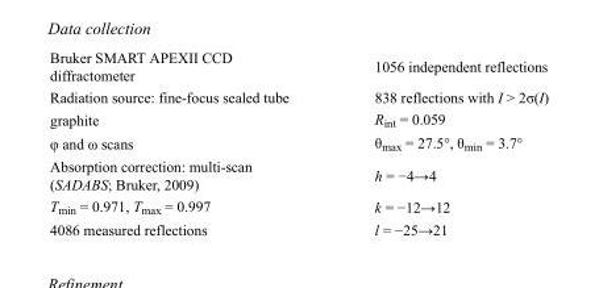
<table><tbody><tr><td>Bruker SMART APEXII CCD diffractometer</td><td>1056 independent reflections</td></tr><tr><td>Radiation source: fine-focus sealed tube</td><td>838 reflections with I &gt; 2σ(I)</td></tr><tr><td>graphite</td><td>R<sub>int</sub> = 0.059</td></tr><tr><td>φ and ω scans</td><td>θ<sub>max</sub> = 27.5°, θ<sub>min</sub> = 3.7°</td></tr><tr><td>Absorption correction: multi-scan (SADABS; Bruker, 2009)</td><td>h = −4→4</td></tr><tr><td>T<sub>min</sub> = 0.971, T<sub>max</sub> = 0.997</td><td>k = −12→12</td></tr><tr><td>4086 measured reflections</td><td>l = −25→21</td></tr></tbody></table>